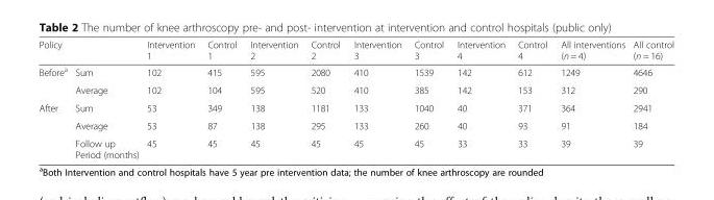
<table><thead><tr><td>Policy</td><td></td><td>Intervention 1</td><td>Control 1</td><td>Intervention 2</td><td>Control 2</td><td>Intervention 3</td><td>Control 3</td><td>Intervention 4</td><td>Control 4</td><td>All interventions (n = 4)</td><td>All control (n = 16)</td></tr></thead><tbody><tr><td rowspan="2">Before<sup>a</sup></td><td>Sum</td><td>102</td><td>415</td><td>595</td><td>2080</td><td>410</td><td>1539</td><td>142</td><td>612</td><td>1249</td><td>4646</td></tr><tr><td>Average</td><td>102</td><td>104</td><td>595</td><td>520</td><td>410</td><td>385</td><td>142</td><td>153</td><td>312</td><td>290</td></tr><tr><td rowspan="3">After</td><td>Sum</td><td>53</td><td>349</td><td>138</td><td>1181</td><td>133</td><td>1040</td><td>40</td><td>371</td><td>364</td><td>2941</td></tr><tr><td>Average</td><td>53</td><td>87</td><td>138</td><td>295</td><td>133</td><td>260</td><td>40</td><td>93</td><td>91</td><td>184</td></tr><tr><td>Follow up Period (months)</td><td>45</td><td>45</td><td>45</td><td>45</td><td>45</td><td>45</td><td>33</td><td>33</td><td>39</td><td>39</td></tr></tbody></table>